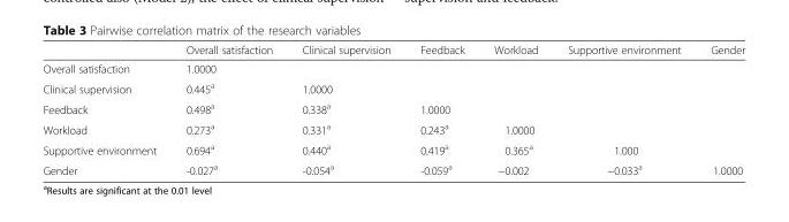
<table><thead><tr><td></td><td>Overall satisfaction</td><td>Clinical supervision</td><td>Feedback</td><td>Workload</td><td>Supportive environment</td><td>Gender</td></tr></thead><tbody><tr><td>Overall satisfaction</td><td>1.0000</td><td></td><td></td><td></td><td></td><td></td></tr><tr><td>Clinical supervision</td><td>0.445<sup>a</sup></td><td>1.0000</td><td></td><td></td><td></td><td></td></tr><tr><td>Feedback</td><td>0.498<sup>a</sup></td><td>0.338<sup>a</sup></td><td>1.0000</td><td></td><td></td><td></td></tr><tr><td>Workload</td><td>0.273<sup>a</sup></td><td>0.331<sup>a</sup></td><td>0.243<sup>a</sup></td><td>1.0000</td><td></td><td></td></tr><tr><td>Supportive environment</td><td>0.694<sup>a</sup></td><td>0.440<sup>a</sup></td><td>0.419<sup>a</sup></td><td>0.365<sup>a</sup></td><td>1.000</td><td></td></tr><tr><td>Gender</td><td>-0.027<sup>a</sup></td><td>-0.054<sup>a</sup></td><td>-0.059<sup>a</sup></td><td>−0.002</td><td>−0.033<sup>a</sup></td><td>1.0000</td></tr></tbody></table>